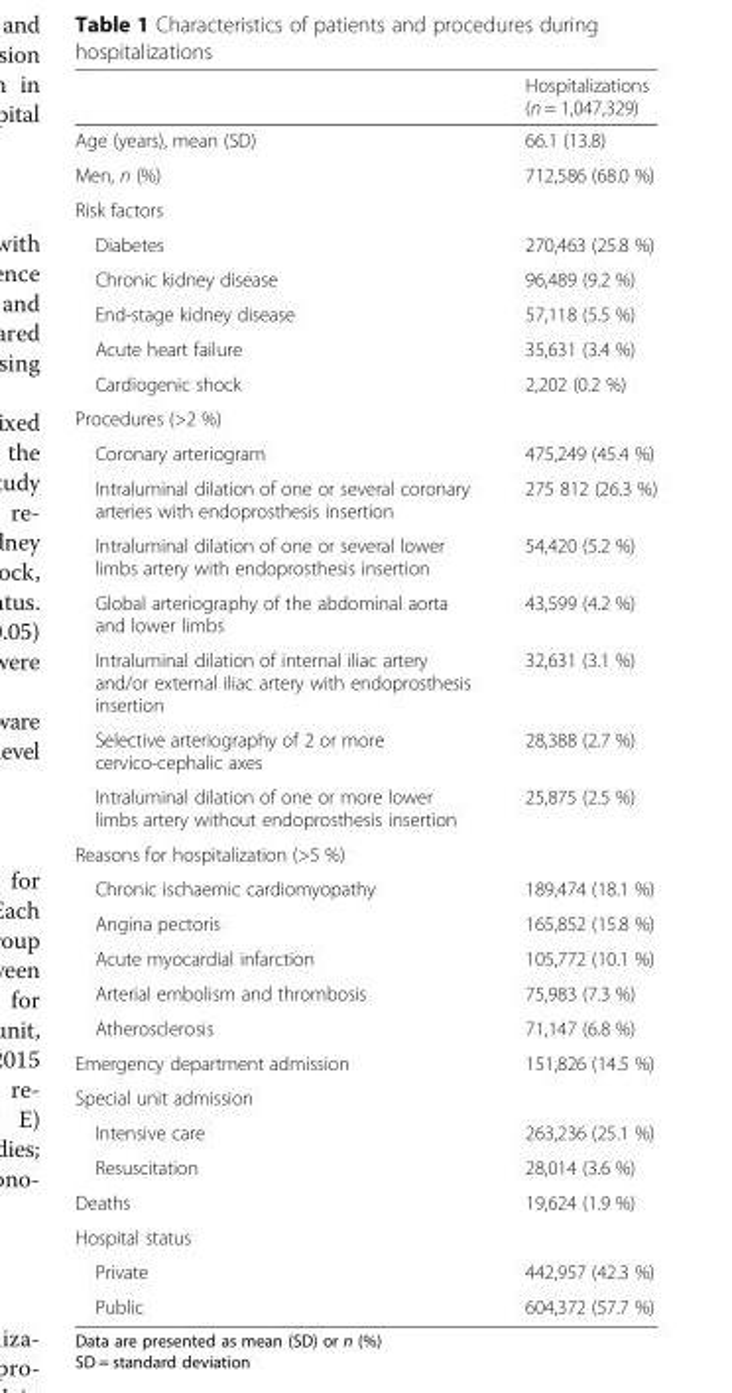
<table><thead><tr><td></td><td>Hospitalizations (n = 1,047,329)</td></tr></thead><tbody><tr><td>Age (years), mean (SD)</td><td>66.1 (13.8)</td></tr><tr><td>Men, n (%)</td><td>712,586 (68.0 %)</td></tr><tr><td colspan="2">Risk factors</td></tr><tr><td>Diabetes</td><td>270,463 (25.8 %)</td></tr><tr><td>Chronic kidney disease</td><td>96,489 (9.2 %)</td></tr><tr><td>End-stage kidney disease</td><td>57,118 (5.5 %)</td></tr><tr><td>Acute heart failure</td><td>35,631 (3.4 %)</td></tr><tr><td>Cardiogenic shock</td><td>2,202 (0.2 %)</td></tr><tr><td colspan="2">Procedures (&gt;2 %)</td></tr><tr><td>Coronary arteriogram</td><td>475,249 (45.4 %)</td></tr><tr><td>Intraluminal dilation of one or several coronary arteries with endoprosthesis insertion</td><td>275 812 (26.3 %)</td></tr><tr><td>Intraluminal dilation of one or several lower limbs artery with endoprosthesis insertion</td><td>54,420 (5.2 %)</td></tr><tr><td>Global arteriography of the abdominal aorta and lower limbs</td><td>43,599 (4.2 %)</td></tr><tr><td>Intraluminal dilation of internal iliac artery and/or external iliac artery with endoprosthesis insertion</td><td>32,631 (3.1 %)</td></tr><tr><td>Selective arteriography of 2 or more cervico-cephalic axes</td><td>28,388 (2.7 %)</td></tr><tr><td>Intraluminal dilation of one or more lower limbs artery without endoprosthesis insertion</td><td>25,875 (2.5 %)</td></tr><tr><td colspan="2">Reasons for hospitalization (&gt;5 %)</td></tr><tr><td>Chronic ischaemic cardiomyopathy</td><td>189,474 (18.1 %)</td></tr><tr><td>Angina pectoris</td><td>165,852 (15.8 %)</td></tr><tr><td>Acute myocardial infarction</td><td>105,772 (10.1 %)</td></tr><tr><td>Arterial embolism and thrombosis</td><td>75,983 (7.3 %)</td></tr><tr><td>Atherosclerosis</td><td>71,147 (6.8 %)</td></tr><tr><td>Emergency department admission</td><td>151,826 (14.5 %)</td></tr><tr><td colspan="2">Special unit admission</td></tr><tr><td>Intensive care</td><td>263,236 (25.1 %)</td></tr><tr><td>Resuscitation</td><td>28,014 (3.6 %)</td></tr><tr><td>Deaths</td><td>19,624 (1.9 %)</td></tr><tr><td colspan="2">Hospital status</td></tr><tr><td>Private</td><td>442,957 (42.3 %)</td></tr><tr><td>Public</td><td>604,372 (57.7 %)</td></tr></tbody></table>